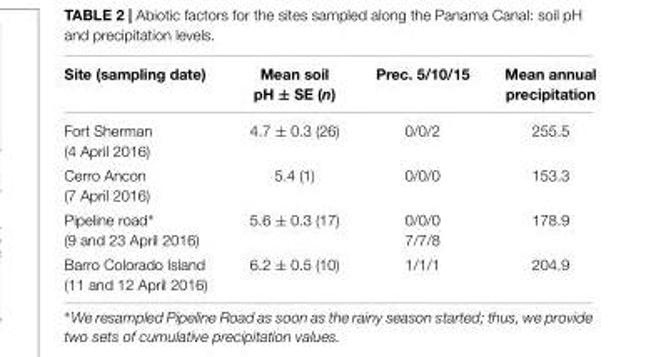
<table><thead><tr><td>Site (sampling date)</td><td>Mean soil pH ± SE (n)</td><td>Prec. 5/10/15</td><td>Mean annual precipitation</td></tr></thead><tbody><tr><td>Fort Sherman (4 April 2016)</td><td>4.7 ± 0.3 (26)</td><td>0/0/2</td><td>255.5</td></tr><tr><td>Cerro Ancon (7 April 2016)</td><td>5.4 (1)</td><td>0/0/0</td><td>153.3</td></tr><tr><td>Pipeline road∗ (9 and 23 April 2016)</td><td>5.6 ± 0.3 (17)</td><td>0/0/0 7/7/8</td><td>178.9</td></tr><tr><td>Barro Colorado Island (11 and 12 April 2016)</td><td>6.2 ± 0.5 (10)</td><td>1/1/1</td><td>204.9</td></tr></tbody></table>